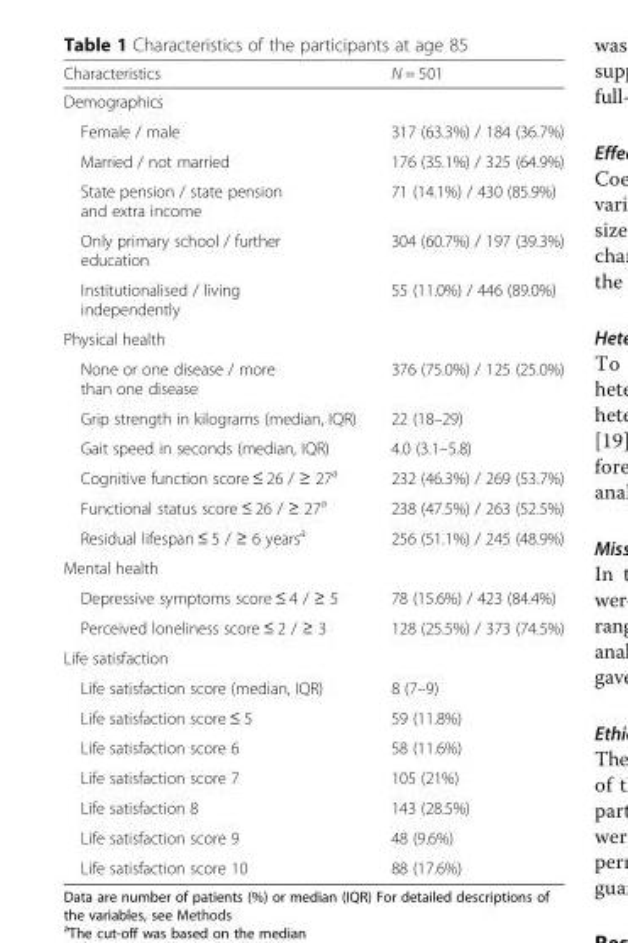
<table><thead><tr><td>Characteristics</td><td>N = 501</td></tr></thead><tbody><tr><td colspan="2">Demographics</td></tr><tr><td>Female / male</td><td>317 (63.3%) / 184 (36.7%)</td></tr><tr><td>Married / not married</td><td>176 (35.1%) / 325 (64.9%)</td></tr><tr><td>State pension / state pension and extra income</td><td>71 (14.1%) / 430 (85.9%)</td></tr><tr><td>Only primary school / further education</td><td>304 (60.7%) / 197 (39.3%)</td></tr><tr><td>Institutionalised / living independently</td><td>55 (11.0%) / 446 (89.0%)</td></tr><tr><td colspan="2">Physical health</td></tr><tr><td>None or one disease / more than one disease</td><td>376 (75.0%) / 125 (25.0%)</td></tr><tr><td>Grip strength in kilograms (median, IQR)</td><td>22 (18–29)</td></tr><tr><td>Gait speed in seconds (median, IQR)</td><td>4.0 (3.1–5.8)</td></tr><tr><td>Cognitive function score ≤ 26 / ≥ 27<sup>a</sup></td><td>232 (46.3%) / 269 (53.7%)</td></tr><tr><td>Functional status score ≤ 26 / ≥ 27<sup>a</sup></td><td>238 (47.5%) / 263 (52.5%)</td></tr><tr><td>Residual lifespan ≤ 5 / ≥ 6 years<sup>a</sup></td><td>256 (51.1%) / 245 (48.9%)</td></tr><tr><td colspan="2">Mental health</td></tr><tr><td>Depressive symptoms score ≤ 4 / ≥ 5</td><td>78 (15.6%) / 423 (84.4%)</td></tr><tr><td>Perceived loneliness score ≤ 2 / ≥ 3</td><td>128 (25.5%) / 373 (74.5%)</td></tr><tr><td colspan="2">Life satisfaction</td></tr><tr><td>Life satisfaction score (median, IQR)</td><td>8 (7–9)</td></tr><tr><td>Life satisfaction score ≤ 5</td><td>59 (11.8%)</td></tr><tr><td>Life satisfaction score 6</td><td>58 (11.6%)</td></tr><tr><td>Life satisfaction score 7</td><td>105 (21%)</td></tr><tr><td>Life satisfaction 8</td><td>143 (28.5%)</td></tr><tr><td>Life satisfaction score 9</td><td>48 (9.6%)</td></tr><tr><td>Life satisfaction score 10</td><td>88 (17.6%)</td></tr></tbody></table>